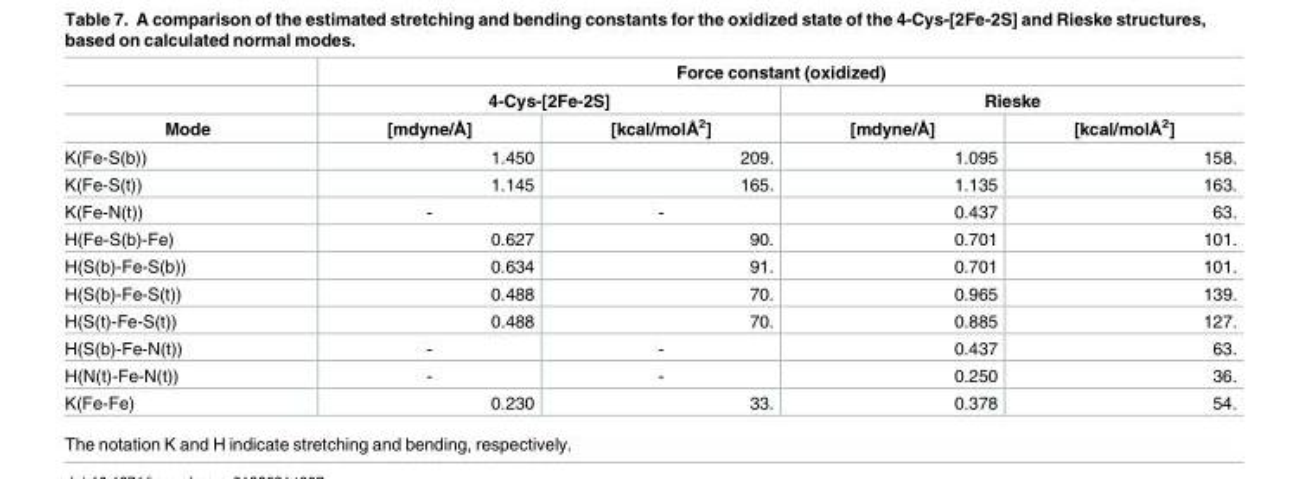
<table><thead><tr><td rowspan="3">Mode</td><td colspan="4">Force constant (oxidized)</td></tr><tr><td colspan="2">4-Cys-[2Fe-2S]</td><td colspan="2">Rieske</td></tr><tr><td>[mdyne/Å]</td><td>[kcal/molÅ<sup>2</sup>]</td><td>[mdyne/Å]</td><td>[kcal/molÅ<sup>2</sup>]</td></tr></thead><tbody><tr><td>K(Fe-S(b))</td><td>1.450</td><td>209.</td><td>1.095</td><td>158.</td></tr><tr><td>K(Fe-S(t))</td><td>1.145</td><td>165.</td><td>1.135</td><td>163.</td></tr><tr><td>K(Fe-N(t))</td><td>-</td><td>-</td><td>0.437</td><td>63.</td></tr><tr><td>H(Fe-S(b)-Fe)</td><td>0.627</td><td>90.</td><td>0.701</td><td>101.</td></tr><tr><td>H(S(b)-Fe-S(b))</td><td>0.634</td><td>91.</td><td>0.701</td><td>101.</td></tr><tr><td>H(S(b)-Fe-S(t))</td><td>0.488</td><td>70.</td><td>0.965</td><td>139.</td></tr><tr><td>H(S(t)-Fe-S(t))</td><td>0.488</td><td>70.</td><td>0.885</td><td>127.</td></tr><tr><td>H(S(b)-Fe-N(t))</td><td>-</td><td>-</td><td>0.437</td><td>63.</td></tr><tr><td>H(N(t)-Fe-N(t))</td><td>-</td><td>-</td><td>0.250</td><td>36.</td></tr><tr><td>K(Fe-Fe)</td><td>0.230</td><td>33.</td><td>0.378</td><td>54.</td></tr></tbody></table>